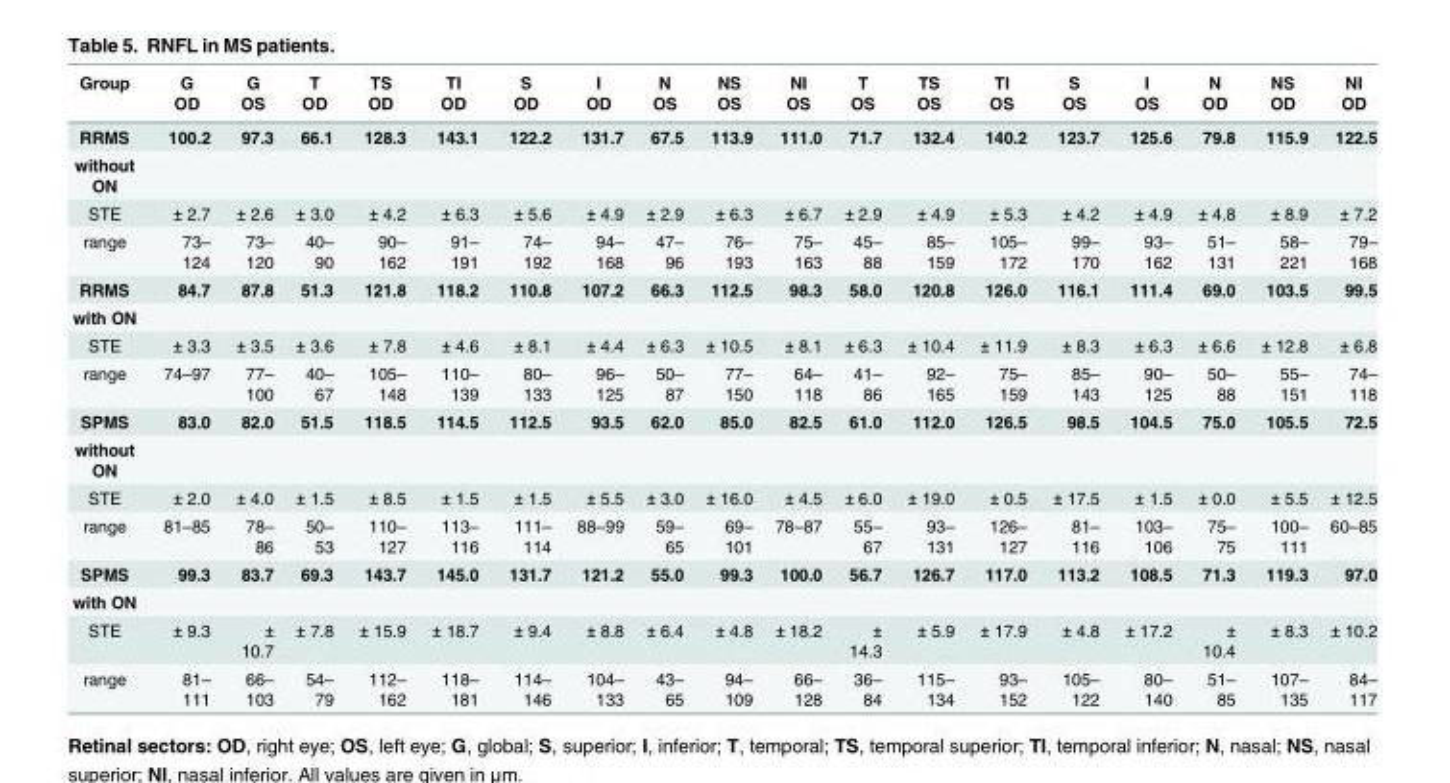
<table><thead><tr><td rowspan="2">Group</td><td rowspan="2">G OD</td><td rowspan="2">G OS</td><td rowspan="2">T OD</td><td rowspan="2">TS OD</td><td rowspan="2">TI OD</td><td rowspan="2">S OD</td><td rowspan="2">I OD</td><td rowspan="2">N OS</td><td rowspan="2">NS OS</td><td rowspan="2">NI OS</td><td rowspan="2">T OS</td><td rowspan="2">TS OS</td><td rowspan="2">TI OS</td><td rowspan="2">S OS</td><td rowspan="2">I OS</td><td rowspan="2">N OD</td><td rowspan="2">NS OD</td><td rowspan="2">NI OD</td></tr><tr></tr></thead><tbody><tr><td>RRMS</td><td>100.2</td><td>97.3</td><td>66.1</td><td>128.3</td><td>143.1</td><td>122.2</td><td>131.7</td><td>67.5</td><td>113.9</td><td>111.0</td><td>71.7</td><td>132.4</td><td>140.2</td><td>123.7</td><td>125.6</td><td>79.8</td><td>115.9</td><td>122.5</td></tr><tr><td colspan="19">without ON</td></tr><tr><td>STE</td><td>± 2.7</td><td>± 2.6</td><td>± 3.0</td><td>± 4.2</td><td>± 6.3</td><td>± 5.6</td><td>± 4.9</td><td>± 2.9</td><td>± 6.3</td><td>± 6.7</td><td>± 2.9</td><td>± 4.9</td><td>± 5.3</td><td>± 4.2</td><td>± 4.9</td><td>± 4.8</td><td>± 8.9</td><td>± 7.2</td></tr><tr><td>range</td><td>73– 124</td><td>73– 120</td><td>40– 90</td><td>90– 162</td><td>91– 191</td><td>74– 192</td><td>94– 168</td><td>47– 96</td><td>76– 193</td><td>75– 163</td><td>45– 88</td><td>85– 159</td><td>105– 172</td><td>99– 170</td><td>93– 162</td><td>51– 131</td><td>58– 221</td><td>79– 168</td></tr><tr><td>RRMS</td><td>84.7</td><td>87.8</td><td>51.3</td><td>121.8</td><td>118.2</td><td>110.8</td><td>107.2</td><td>66.3</td><td>112.5</td><td>98.3</td><td>58.0</td><td>120.8</td><td>126.0</td><td>116.1</td><td>111.4</td><td>69.0</td><td>103.5</td><td>99.5</td></tr><tr><td colspan="19">with ON</td></tr><tr><td>STE</td><td>± 3.3</td><td>± 3.5</td><td>± 3.6</td><td>± 7.8</td><td>± 4.6</td><td>± 8.1</td><td>± 4.4</td><td>± 6.3</td><td>± 10.5</td><td>± 8.1</td><td>± 6.3</td><td>± 10.4</td><td>± 11.9</td><td>± 8.3</td><td>± 6.3</td><td>± 6.6</td><td>± 12.8</td><td>± 6.8</td></tr><tr><td>range</td><td>74–97</td><td>77– 100</td><td>40– 67</td><td>105– 148</td><td>110– 139</td><td>80– 133</td><td>96– 125</td><td>50– 87</td><td>77– 150</td><td>64– 118</td><td>41– 86</td><td>92– 165</td><td>75– 159</td><td>85– 143</td><td>90– 125</td><td>50– 88</td><td>55– 151</td><td>74– 118</td></tr><tr><td>SPMS</td><td>83.0</td><td>82.0</td><td>51.5</td><td>118.5</td><td>114.5</td><td>112.5</td><td>93.5</td><td>62.0</td><td>85.0</td><td>82.5</td><td>61.0</td><td>112.0</td><td>126.5</td><td>98.5</td><td>104.5</td><td>75.0</td><td>105.5</td><td>72.5</td></tr><tr><td colspan="19">without ON</td></tr><tr><td>STE</td><td>± 2.0</td><td>± 4.0</td><td>± 1.5</td><td>± 8.5</td><td>± 1.5</td><td>± 1.5</td><td>± 5.5</td><td>± 3.0</td><td>± 16.0</td><td>± 4.5</td><td>± 6.0</td><td>± 19.0</td><td>± 0.5</td><td>± 17.5</td><td>± 1.5</td><td>± 0.0</td><td>± 5.5</td><td>± 12.5</td></tr><tr><td>range</td><td>81–85</td><td>78– 86</td><td>50– 53</td><td>110– 127</td><td>113– 116</td><td>111– 114</td><td>88–99</td><td>59– 65</td><td>69– 101</td><td>78–87</td><td>55– 67</td><td>93– 131</td><td>126– 127</td><td>81– 116</td><td>103– 106</td><td>75– 75</td><td>100– 111</td><td>60–85</td></tr><tr><td>SPMS</td><td>99.3</td><td>83.7</td><td>69.3</td><td>143.7</td><td>145.0</td><td>131.7</td><td>121.2</td><td>55.0</td><td>99.3</td><td>100.0</td><td>56.7</td><td>126.7</td><td>117.0</td><td>113.2</td><td>108.5</td><td>71.3</td><td>119.3</td><td>97.0</td></tr><tr><td colspan="19">with ON</td></tr><tr><td>STE</td><td>± 9.3</td><td>± 10.7</td><td>± 7.8</td><td>± 15.9</td><td>± 18.7</td><td>± 9.4</td><td>± 8.8</td><td>± 6.4</td><td>± 4.8</td><td>± 18.2</td><td>± 14.3</td><td>± 5.9</td><td>± 17.9</td><td>± 4.8</td><td>± 17.2</td><td>± 10.4</td><td>± 8.3</td><td>± 10.2</td></tr><tr><td>range</td><td>81– 111</td><td>66– 103</td><td>54– 79</td><td>112– 162</td><td>118– 181</td><td>114– 146</td><td>104– 133</td><td>43– 65</td><td>94– 109</td><td>66– 128</td><td>36– 84</td><td>115– 134</td><td>93– 152</td><td>105– 122</td><td>80– 140</td><td>51– 85</td><td>107– 135</td><td>84– 117</td></tr></tbody></table>